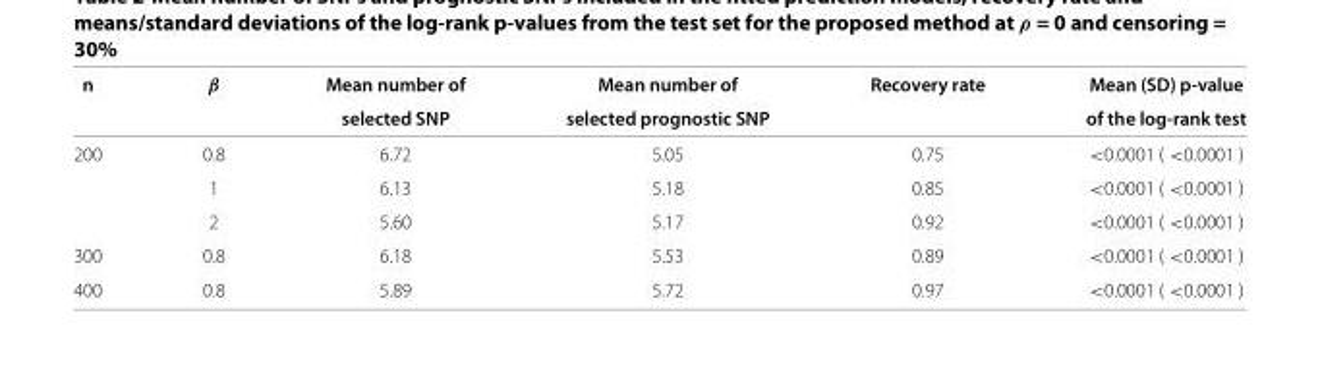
<table><thead><tr><td rowspan="2">n</td><td rowspan="2">β</td><td rowspan="2">Mean number of selected SNP</td><td rowspan="2">Mean number of selected prognostic SNP</td><td rowspan="2">Recovery rate</td><td rowspan="2">Mean (SD) p-value of the log-rank test</td></tr><tr></tr></thead><tbody><tr><td rowspan="3">200</td><td>0.8</td><td>6.72</td><td>5.05</td><td>0.75</td><td>&lt;0.0001 ( &lt;0.0001 )</td></tr><tr><td>1</td><td>6.13</td><td>5.18</td><td>0.85</td><td>&lt;0.0001 ( &lt;0.0001 )</td></tr><tr><td>2</td><td>5.60</td><td>5.17</td><td>0.92</td><td>&lt;0.0001 ( &lt;0.0001 )</td></tr><tr><td>300</td><td>0.8</td><td>6.18</td><td>5.53</td><td>0.89</td><td>&lt;0.0001 ( &lt;0.0001 )</td></tr><tr><td>400</td><td>0.8</td><td>5.89</td><td>5.72</td><td>0.97</td><td>&lt;0.0001 ( &lt;0.0001 )</td></tr></tbody></table>